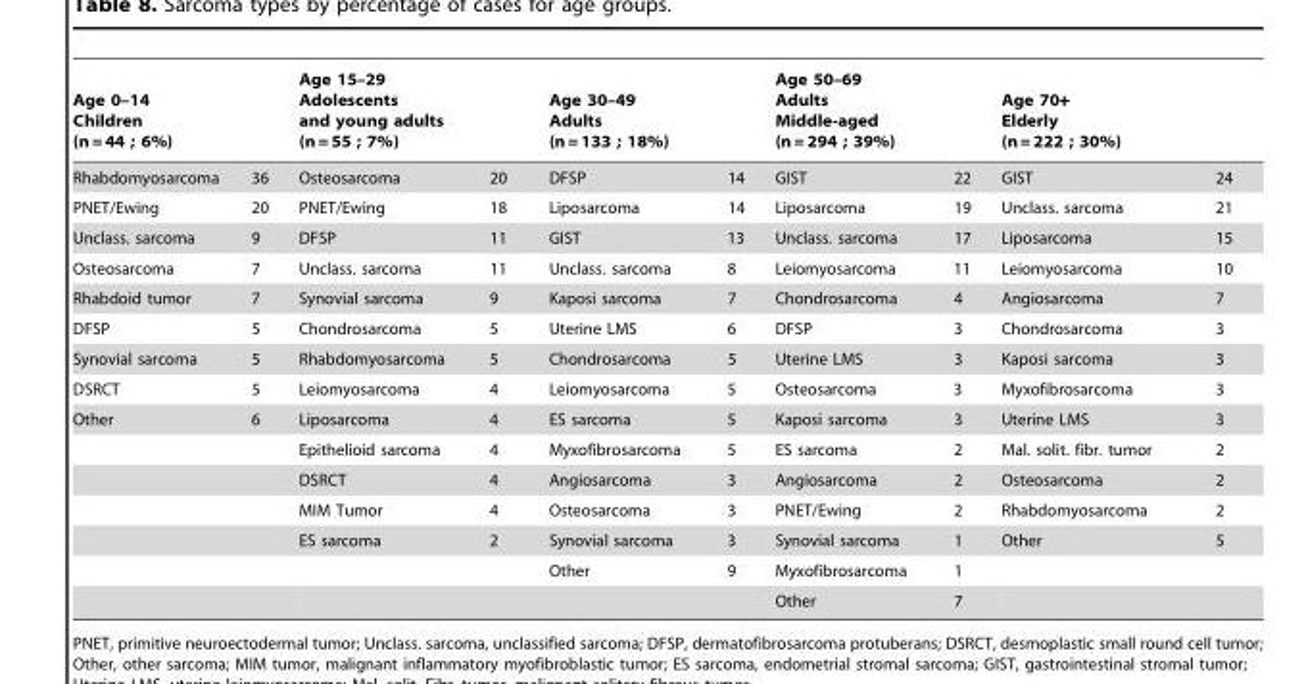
<table><thead><tr><td colspan="2">Age 0–14 Children (n = 44 ; 6%)</td><td colspan="2">Age 15–29 Adolescents and young adults (n = 55 ; 7%)</td><td colspan="2">Age 30–49 Adults (n = 133 ; 18%)</td><td colspan="2">Age 50–69 Adults Middle-aged (n = 294 ; 39%)</td><td colspan="2">Age 70+ Elderly (n = 222 ; 30%)</td></tr><tr><td>Rhabdomyosarcoma</td><td>36</td><td>Osteosarcoma</td><td>20</td><td>DFSP</td><td>14</td><td>GIST</td><td>22</td><td>GIST</td><td>24</td></tr></thead><tbody><tr><td>PNET/Ewing</td><td>20</td><td>PNET/Ewing</td><td>18</td><td>Liposarcoma</td><td>14</td><td>Liposarcoma</td><td>19</td><td>Unclass. sarcoma</td><td>21</td></tr><tr><td>Unclass. sarcoma</td><td>9</td><td>DFSP</td><td>11</td><td>GIST</td><td>13</td><td>Unclass. sarcoma</td><td>17</td><td>Liposarcoma</td><td>15</td></tr><tr><td>Osteosarcoma</td><td>7</td><td>Unclass. sarcoma</td><td>11</td><td>Unclass. sarcoma</td><td>8</td><td>Leiomyosarcoma</td><td>11</td><td>Leiomyosarcoma</td><td>10</td></tr><tr><td>Rhabdoid tumor</td><td>7</td><td>Synovial sarcoma</td><td>9</td><td>Kaposi sarcoma</td><td>7</td><td>Chondrosarcoma</td><td>4</td><td>Angiosarcoma</td><td>7</td></tr><tr><td>DFSP</td><td>5</td><td>Chondrosarcoma</td><td>5</td><td>Uterine LMS</td><td>6</td><td>DFSP</td><td>3</td><td>Chondrosarcoma</td><td>3</td></tr><tr><td>Synovial sarcoma</td><td>5</td><td>Rhabdomyosarcoma</td><td>5</td><td>Chondrosarcoma</td><td>5</td><td>Uterine LMS</td><td>3</td><td>Kaposi sarcoma</td><td>3</td></tr><tr><td>DSRCT</td><td>5</td><td>Leiomyosarcoma</td><td>4</td><td>Leiomyosarcoma</td><td>5</td><td>Osteosarcoma</td><td>3</td><td>Myxofibrosarcoma</td><td>3</td></tr><tr><td rowspan="7">Other</td><td>6</td><td>Liposarcoma</td><td>4</td><td>ES sarcoma</td><td>5</td><td>Kaposi sarcoma</td><td>3</td><td>Uterine LMS</td><td>3</td></tr><tr><td></td><td>Epithelioid sarcoma</td><td>4</td><td>Myxofibrosarcoma</td><td>5</td><td>ES sarcoma</td><td>2</td><td>Mal. solit. fibr. tumor</td><td>2</td></tr><tr><td></td><td>DSRCT</td><td>4</td><td>Angiosarcoma</td><td>3</td><td>Angiosarcoma</td><td>2</td><td>Osteosarcoma</td><td>2</td></tr><tr><td></td><td>MIM Tumor</td><td>4</td><td>Osteosarcoma</td><td>3</td><td>PNET/Ewing</td><td>2</td><td>Rhabdomyosarcoma</td><td>2</td></tr><tr><td></td><td>ES sarcoma</td><td>2</td><td>Synovial sarcoma</td><td>3</td><td>Synovial sarcoma</td><td>1</td><td>Other</td><td>5</td></tr><tr><td></td><td></td><td></td><td>Other</td><td>9</td><td>Myxofibrosarcoma</td><td>1</td><td></td><td></td></tr><tr><td></td><td></td><td></td><td></td><td></td><td>Other</td><td>7</td><td></td><td></td></tr></tbody></table>